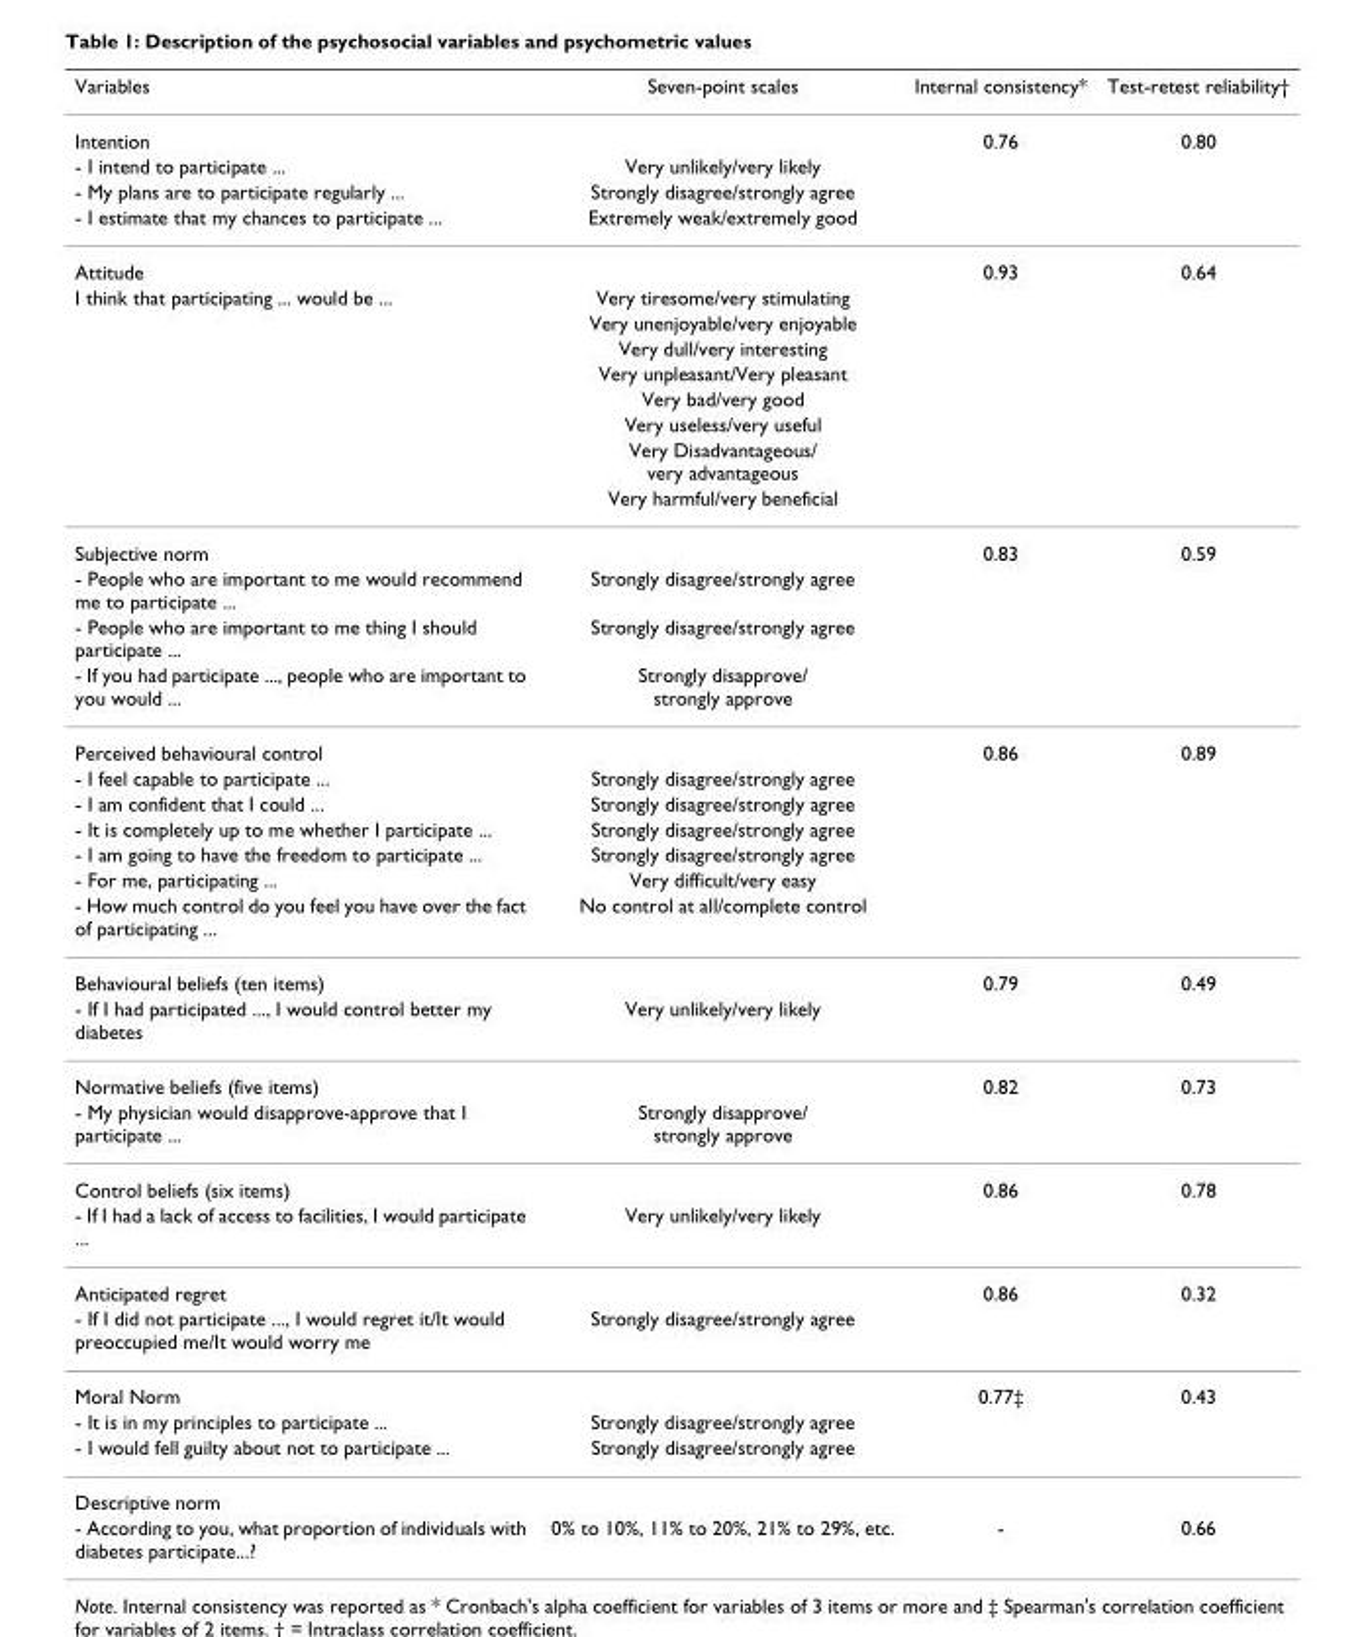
<table><thead><tr><td>Variables</td><td>Seven-point scales</td><td>Internal consistency*</td><td>Test-retest reliability†</td></tr></thead><tbody><tr><td>Intention</td><td></td><td>0.76</td><td>0.80</td></tr><tr><td>- I intend to participate ...</td><td>Very unlikely/very likely</td><td></td><td></td></tr><tr><td>- My plans are to participate regularly ...</td><td>Strongly disagree/strongly agree</td><td></td><td></td></tr><tr><td>- I estimate that my chances to participate ...</td><td>Extremely weak/extremely good</td><td></td><td></td></tr><tr><td>Attitude</td><td></td><td>0.93</td><td>0.64</td></tr><tr><td rowspan="8">I think that participating ... would be ...</td><td>Very tiresome/very stimulating</td><td></td><td></td></tr><tr><td>Very unenjoyable/very enjoyable</td><td></td><td></td></tr><tr><td>Very dull/very interesting</td><td></td><td></td></tr><tr><td>Very unpleasant/Very pleasant</td><td></td><td></td></tr><tr><td>Very bad/very good</td><td></td><td></td></tr><tr><td>Very useless/very useful</td><td></td><td></td></tr><tr><td>Very Disadvantageous/ very advantageous</td><td></td><td></td></tr><tr><td>Very harmful/very beneficial</td><td></td><td></td></tr><tr><td>Subjective norm</td><td></td><td>0.83</td><td>0.59</td></tr><tr><td>- People who are important to me would recommend me to participate ...</td><td>Strongly disagree/strongly agree</td><td></td><td></td></tr><tr><td>- People who are important to me thing I should participate ...</td><td>Strongly disagree/strongly agree</td><td></td><td></td></tr><tr><td>- If you had participate ..., people who are important to you would ...</td><td>Strongly disapprove/ strongly approve</td><td></td><td></td></tr><tr><td>Perceived behavioural control</td><td></td><td>0.86</td><td>0.89</td></tr><tr><td>- I feel capable to participate ...</td><td>Strongly disagree/strongly agree</td><td></td><td></td></tr><tr><td>- I am confident that I could ...</td><td>Strongly disagree/strongly agree</td><td></td><td></td></tr><tr><td>- It is completely up to me whether I participate ...</td><td>Strongly disagree/strongly agree</td><td></td><td></td></tr><tr><td>- I am going to have the freedom to participate ...</td><td>Strongly disagree/strongly agree</td><td></td><td></td></tr><tr><td>- For me, participating ...</td><td>Very difficult/very easy</td><td></td><td></td></tr><tr><td>- How much control do you feel you have over the fact of participating ...</td><td>No control at all/complete control</td><td></td><td></td></tr><tr><td>Behavioural beliefs (ten items)</td><td></td><td>0.79</td><td>0.49</td></tr><tr><td>- If I had participated ..., I would control better my diabetes</td><td>Very unlikely/very likely</td><td></td><td></td></tr><tr><td>Normative beliefs (five items)</td><td></td><td>0.82</td><td>0.73</td></tr><tr><td>- My physician would disapprove-approve that I participate ...</td><td>Strongly disapprove/ strongly approve</td><td></td><td></td></tr><tr><td>Control beliefs (six items)</td><td></td><td>0.86</td><td>0.78</td></tr><tr><td>- If I had a lack of access to facilities, I would participate ...</td><td>Very unlikely/very likely</td><td></td><td></td></tr><tr><td>Anticipated regret</td><td></td><td>0.86</td><td>0.32</td></tr><tr><td>- If I did not participate ..., I would regret it/It would preoccupied me/It would worry me</td><td>Strongly disagree/strongly agree</td><td></td><td></td></tr><tr><td>Moral Norm</td><td></td><td>0.77‡</td><td>0.43</td></tr><tr><td>- It is in my principles to participate ...</td><td>Strongly disagree/strongly agree</td><td></td><td></td></tr><tr><td>- I would fell guilty about not to participate ...</td><td>Strongly disagree/strongly agree</td><td></td><td></td></tr><tr><td colspan="4">Descriptive norm</td></tr><tr><td>- According to you, what proportion of individuals with diabetes participate...?</td><td>0% to 10%, 11% to 20%, 21% to 29%, etc.</td><td>-</td><td>0.66</td></tr></tbody></table>